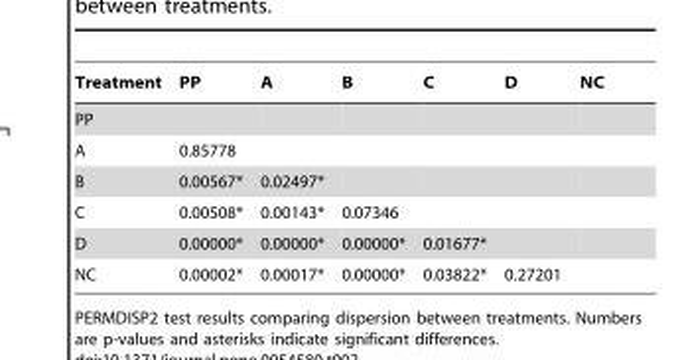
<table><thead><tr><td>Treatment</td><td>PP</td><td>A</td><td>B</td><td>C</td><td>D</td><td>NC</td></tr></thead><tbody><tr><td colspan="7">PP</td></tr><tr><td>A</td><td>0.85778</td><td></td><td></td><td></td><td></td><td></td></tr><tr><td>B</td><td>0.00567*</td><td>0.02497*</td><td></td><td></td><td></td><td></td></tr><tr><td>C</td><td>0.00508*</td><td>0.00143*</td><td>0.07346</td><td></td><td></td><td></td></tr><tr><td>D</td><td>0.00000*</td><td>0.00000*</td><td>0.00000*</td><td>0.01677*</td><td></td><td></td></tr><tr><td>NC</td><td>0.00002*</td><td>0.00017*</td><td>0.00000*</td><td>0.03822*</td><td>0.27201</td><td></td></tr></tbody></table>